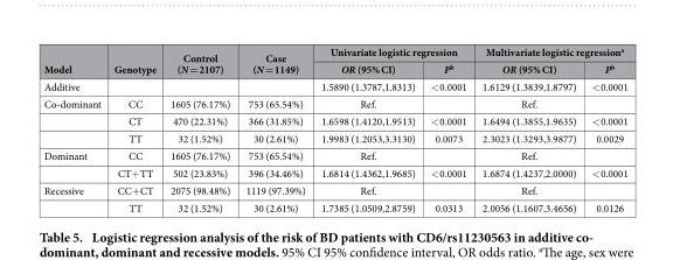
<table><thead><tr><td rowspan="2">Model</td><td rowspan="2">Genotype</td><td rowspan="2">Control (N = 2107)</td><td rowspan="2">Case (N = 1149)</td><td colspan="2">Univariate logistic regression</td><td colspan="2">Multivariate logistic regression<sup>a</sup></td></tr><tr><td>OR (95% CI)</td><td>P<sup>b</sup></td><td>OR (95% CI)</td><td>P<sup>b</sup></td></tr></thead><tbody><tr><td>Additive</td><td></td><td></td><td></td><td>1.5890 (1.3787,1.8313)</td><td>&lt; 0.0001</td><td>1.6129 (1.3839,1.8797)</td><td>&lt; 0.0001</td></tr><tr><td rowspan="3">Co-dominant</td><td>CC</td><td>1605 (76.17%)</td><td>753 (65.54%)</td><td>Ref.</td><td></td><td>Ref.</td><td></td></tr><tr><td>CT</td><td>470 (22.31%)</td><td>366 (31.85%)</td><td>1.6598 (1.4120,1.9513)</td><td>&lt; 0.0001</td><td>1.6494 (1.3855,1.9635)</td><td>&lt; 0.0001</td></tr><tr><td>TT</td><td>32 (1.52%)</td><td>30 (2.61%)</td><td>1.9983 (1.2053,3.3130)</td><td>0.0073</td><td>2.3023 (1.3293,3.9877)</td><td>0.0029</td></tr><tr><td rowspan="2">Dominant</td><td>CC</td><td>1605 (76.17%)</td><td>753 (65.54%)</td><td>Ref.</td><td></td><td>Ref.</td><td></td></tr><tr><td>CT+ TT</td><td>502 (23.83%)</td><td>396 (34.46%)</td><td>1.6814 (1.4362,1.9685)</td><td>&lt; 0.0001</td><td>1.6874 (1.4237,2.0000)</td><td>&lt; 0.0001</td></tr><tr><td rowspan="2">Recessive</td><td>CC+ CT</td><td>2075 (98.48%)</td><td>1119 (97.39%)</td><td>Ref.</td><td></td><td>Ref.</td><td></td></tr><tr><td>TT</td><td>32 (1.52%)</td><td>30 (2.61%)</td><td>1.7385 (1.0509,2.8759)</td><td>0.0313</td><td>2.0056 (1.1607,3.4656)</td><td>0.0126</td></tr></tbody></table>